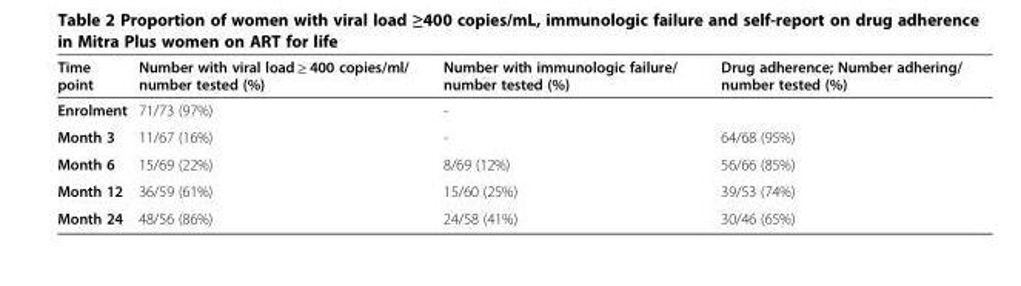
<table><thead><tr><td>Time point</td><td>Number with viral load ≥ 400 copies/ml/ number tested (%)</td><td>Number with immunologic failure/ number tested (%)</td><td>Drug adherence; Number adhering/ number tested (%)</td></tr></thead><tbody><tr><td>Enrolment</td><td>71/73 (97%)</td><td>-</td><td></td></tr><tr><td>Month 3</td><td>11/67 (16%)</td><td>-</td><td>64/68 (95%)</td></tr><tr><td>Month 6</td><td>15/69 (22%)</td><td>8/69 (12%)</td><td>56/66 (85%)</td></tr><tr><td>Month 12</td><td>36/59 (61%)</td><td>15/60 (25%)</td><td>39/53 (74%)</td></tr><tr><td>Month 24</td><td>48/56 (86%)</td><td>24/58 (41%)</td><td>30/46 (65%)</td></tr></tbody></table>